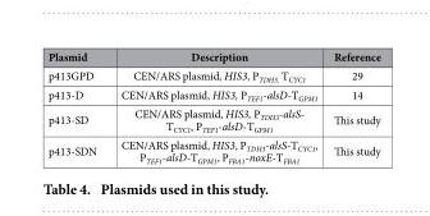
<table><thead><tr><td>Plasmid</td><td>Description</td><td>Reference</td></tr></thead><tbody><tr><td>p413GPD</td><td>CEN/ARS plasmid, HIS3, P<sub>TDH3,</sub> T<sub>CYC1</sub></td><td>29</td></tr><tr><td>p413-D</td><td>CEN/ARS plasmid, HIS3, P<sub>TEF1</sub>-alsD-T<sub>GPM1</sub></td><td>14</td></tr><tr><td>p413-SD</td><td>CEN/ARS plasmid, HIS3, P<sub>TDH3</sub>-alsS- T<sub>CYC1</sub>, P<sub>TEF1</sub>-alsD-T<sub>GPM1</sub></td><td>This study</td></tr><tr><td>p413-SDN</td><td>CEN/ARS plasmid, HIS3, P<sub>TDH3</sub>-alsS-T<sub>CYC1</sub>, P<sub>TEF1</sub>-alsD-T<sub>GPM1</sub>, P<sub>FBA1</sub>-noxE-T<sub>FBA1</sub></td><td>This study</td></tr></tbody></table>